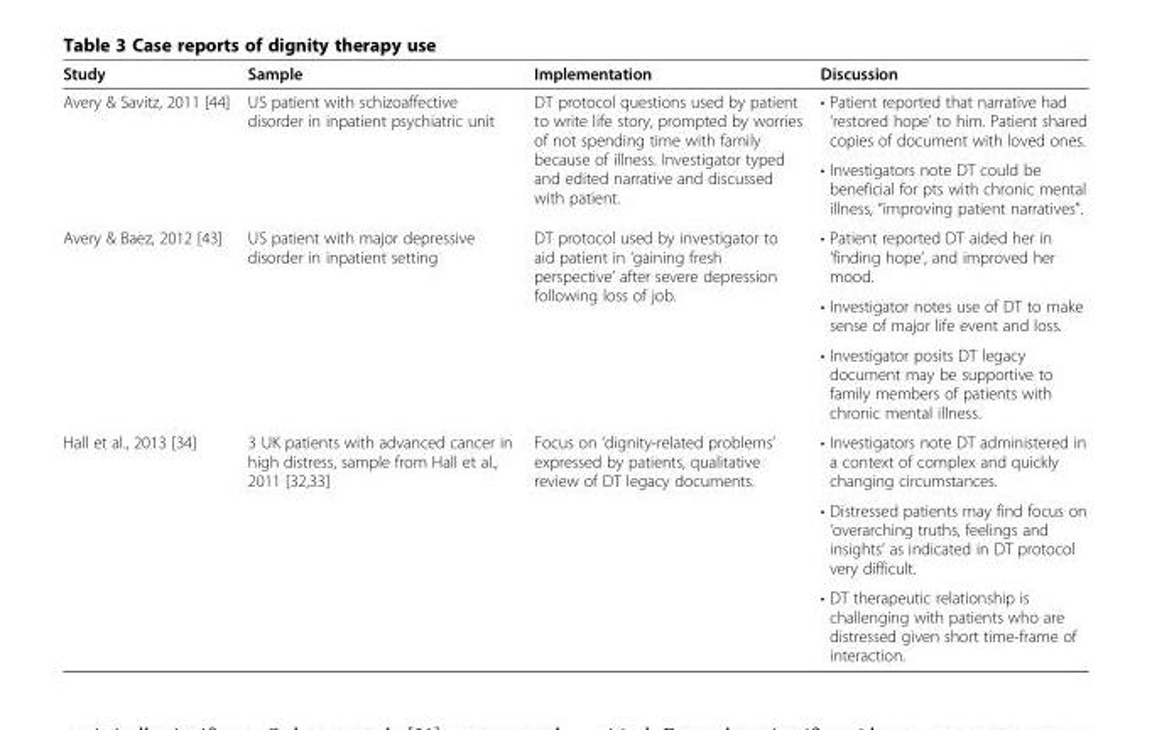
<table><thead><tr><td>Study</td><td>Sample</td><td>Implementation</td><td>Discussion</td></tr></thead><tbody><tr><td rowspan="2">Avery &amp; Savitz, 2011 [44]</td><td rowspan="2">US patient with schizoaffective disorder in inpatient psychiatric unit</td><td rowspan="2">DT protocol questions used by patient to write life story, prompted by worries of not spending time with family because of illness. Investigator typed and edited narrative and discussed with patient.</td><td>• Patient reported that narrative had ‘restored hope’ to him. Patient shared copies of document with loved ones.</td></tr><tr><td>• Investigators note DT could be beneficial for pts with chronic mental illness, “improving patient narratives”.</td></tr><tr><td rowspan="3">Avery &amp; Baez, 2012 [43]</td><td rowspan="3">US patient with major depressive disorder in inpatient setting</td><td rowspan="3">DT protocol used by investigator to aid patient in ‘gaining fresh perspective’ after severe depression following loss of job.</td><td>• Patient reported DT aided her in ‘finding hope’, and improved her mood.</td></tr><tr><td>• Investigator notes use of DT to make sense of major life event and loss.</td></tr><tr><td>• Investigator posits DT legacy document may be supportive to family members of patients with chronic mental illness.</td></tr><tr><td rowspan="3">Hall et al., 2013 [34]</td><td rowspan="3">3 UK patients with advanced cancer in high distress, sample from Hall et al., 2011 [32,33]</td><td rowspan="3">Focus on ‘dignity-related problems’ expressed by patients, qualitative review of DT legacy documents.</td><td>• Investigators note DT administered in a context of complex and quickly changing circumstances.</td></tr><tr><td>• Distressed patients may find focus on ‘overarching truths, feelings and insights’ as indicated in DT protocol very difficult.</td></tr><tr><td>• DT therapeutic relationship is challenging with patients who are distressed given short time-frame of interaction.</td></tr></tbody></table>